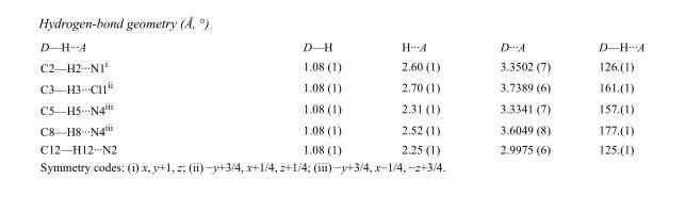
<table><tbody><tr><td>D—H···A</td><td>D—H</td><td>H···A</td><td>D···A</td><td>D—H···A</td></tr><tr><td>C2—H2···N1<sup>i</sup></td><td>1.08 (1)</td><td>2.60 (1)</td><td>3.3502 (7)</td><td>126.(1)</td></tr><tr><td>C3—H3···Cl1<sup>ii</sup></td><td>1.08 (1)</td><td>2.70 (1)</td><td>3.7389 (6)</td><td>161.(1)</td></tr><tr><td>C5—H5···N4<sup>iii</sup></td><td>1.08 (1)</td><td>2.31 (1)</td><td>3.3341 (7)</td><td>157.(1)</td></tr><tr><td>C8—H8···N4<sup>iii</sup></td><td>1.08 (1)</td><td>2.52 (1)</td><td>3.6049 (8)</td><td>177.(1)</td></tr><tr><td>C12—H12···N2</td><td>1.08 (1)</td><td>2.25 (1)</td><td>2.9975 (6)</td><td>125.(1)</td></tr></tbody></table>